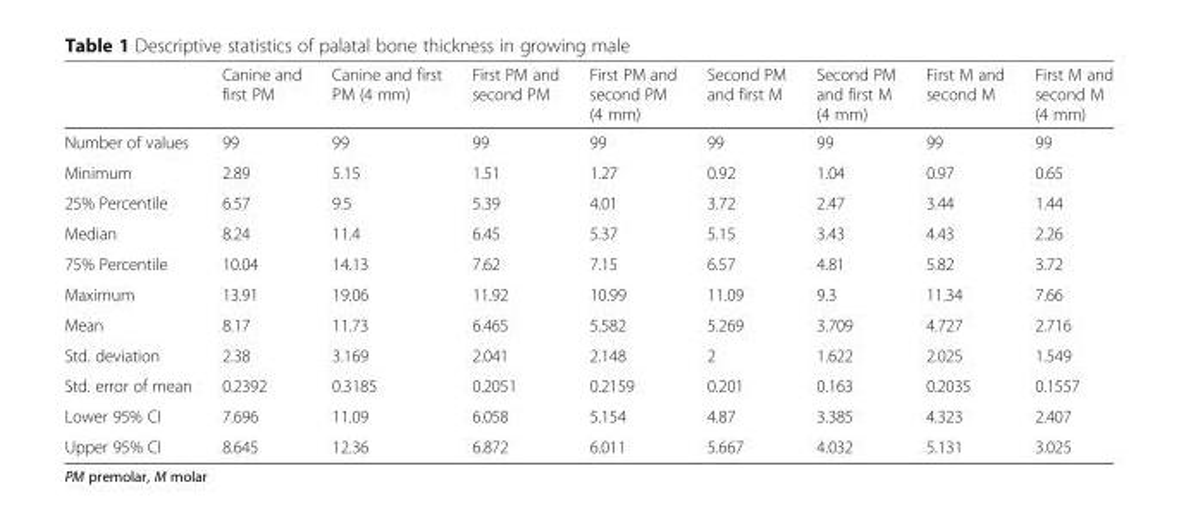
<table><thead><tr><td></td><td>Canine and first PM</td><td>Canine and first PM (4 mm)</td><td>First PM and second PM</td><td>First PM and second PM (4 mm)</td><td>Second PM and first M</td><td>Second PM and first M (4 mm)</td><td>First M and second M</td><td>First M and second M (4 mm)</td></tr></thead><tbody><tr><td>Number of values</td><td>99</td><td>99</td><td>99</td><td>99</td><td>99</td><td>99</td><td>99</td><td>99</td></tr><tr><td>Minimum</td><td>2.89</td><td>5.15</td><td>1.51</td><td>1.27</td><td>0.92</td><td>1.04</td><td>0.97</td><td>0.65</td></tr><tr><td>25% Percentile</td><td>6.57</td><td>9.5</td><td>5.39</td><td>4.01</td><td>3.72</td><td>2.47</td><td>3.44</td><td>1.44</td></tr><tr><td>Median</td><td>8.24</td><td>11.4</td><td>6.45</td><td>5.37</td><td>5.15</td><td>3.43</td><td>4.43</td><td>2.26</td></tr><tr><td>75% Percentile</td><td>10.04</td><td>14.13</td><td>7.62</td><td>7.15</td><td>6.57</td><td>4.81</td><td>5.82</td><td>3.72</td></tr><tr><td>Maximum</td><td>13.91</td><td>19.06</td><td>11.92</td><td>10.99</td><td>11.09</td><td>9.3</td><td>11.34</td><td>7.66</td></tr><tr><td>Mean</td><td>8.17</td><td>11.73</td><td>6.465</td><td>5.582</td><td>5.269</td><td>3.709</td><td>4.727</td><td>2.716</td></tr><tr><td>Std. deviation</td><td>2.38</td><td>3.169</td><td>2.041</td><td>2.148</td><td>2</td><td>1.622</td><td>2.025</td><td>1.549</td></tr><tr><td>Std. error of mean</td><td>0.2392</td><td>0.3185</td><td>0.2051</td><td>0.2159</td><td>0.201</td><td>0.163</td><td>0.2035</td><td>0.1557</td></tr><tr><td>Lower 95% CI</td><td>7.696</td><td>11.09</td><td>6.058</td><td>5.154</td><td>4.87</td><td>3.385</td><td>4.323</td><td>2.407</td></tr><tr><td>Upper 95% CI</td><td>8.645</td><td>12.36</td><td>6.872</td><td>6.011</td><td>5.667</td><td>4.032</td><td>5.131</td><td>3.025</td></tr></tbody></table>